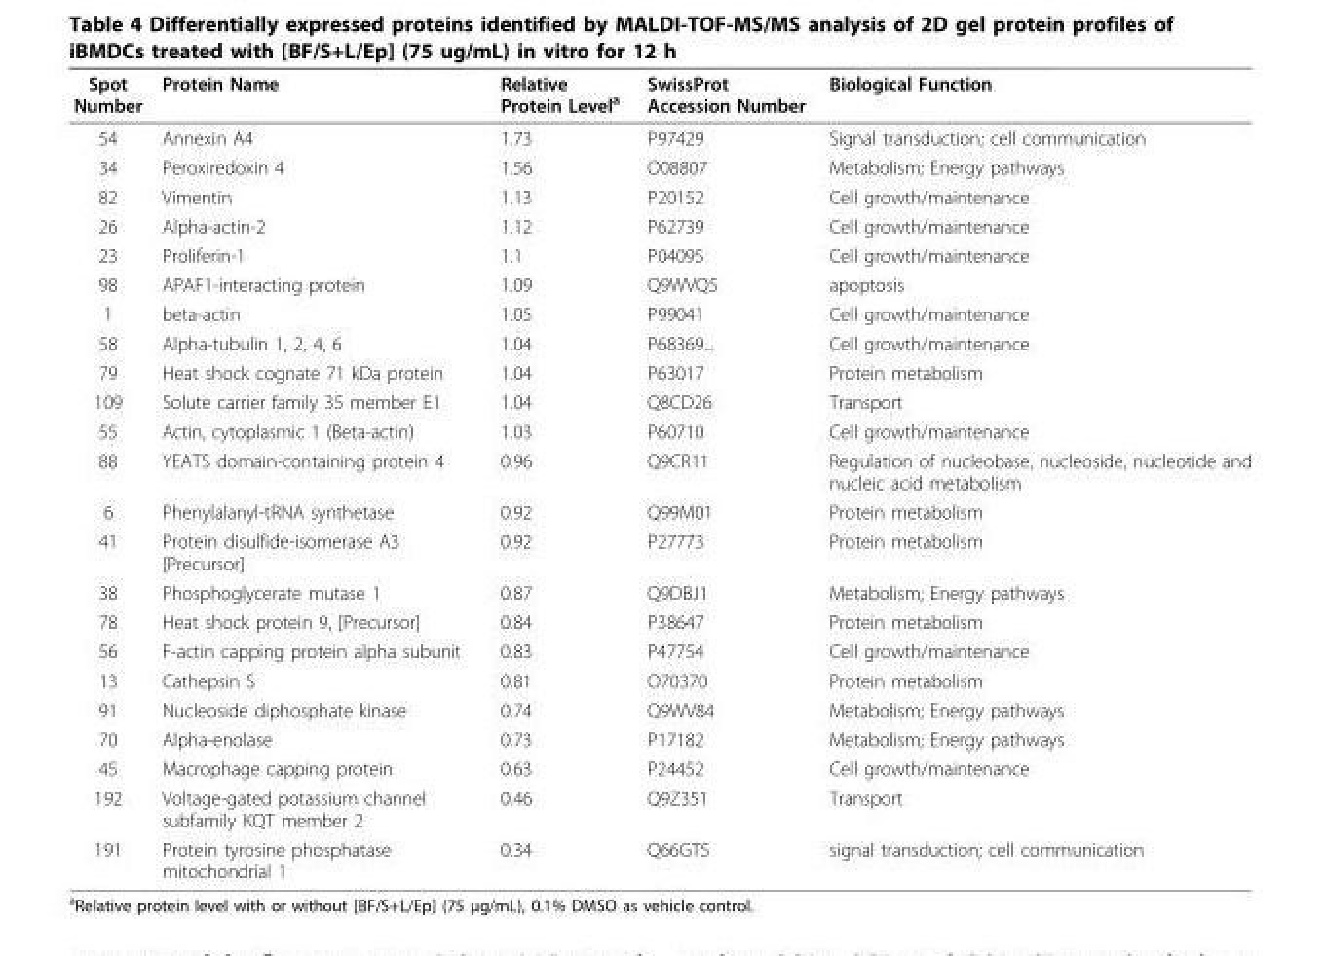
<table><thead><tr><td>Spot Number</td><td>Protein Name</td><td>Relative Protein Level<sup>a</sup></td><td>SwissProt Accession Number</td><td>Biological Function</td></tr></thead><tbody><tr><td>54</td><td>Annexin A4</td><td>1.73</td><td>P97429</td><td>Signal transduction; cell communication</td></tr><tr><td>34</td><td>Peroxiredoxin 4</td><td>1.56</td><td>O08807</td><td>Metabolism; Energy pathways</td></tr><tr><td>82</td><td>Vimentin</td><td>1.13</td><td>P20152</td><td>Cell growth/maintenance</td></tr><tr><td>26</td><td>Alpha-actin-2</td><td>1.12</td><td>P62739</td><td>Cell growth/maintenance</td></tr><tr><td>23</td><td>Proliferin-1</td><td>1.1</td><td>P04095</td><td>Cell growth/maintenance</td></tr><tr><td>98</td><td>APAF1-interacting protein</td><td>1.09</td><td>Q9WVQ5</td><td>apoptosis</td></tr><tr><td>1</td><td>beta-actin</td><td>1.05</td><td>P99041</td><td>Cell growth/maintenance</td></tr><tr><td>58</td><td>Alpha-tubulin 1, 2, 4, 6</td><td>1.04</td><td>P68369...</td><td>Cell growth/maintenance</td></tr><tr><td>79</td><td>Heat shock cognate 71 kDa protein</td><td>1.04</td><td>P63017</td><td>Protein metabolism</td></tr><tr><td>109</td><td>Solute carrier family 35 member E1</td><td>1.04</td><td>Q8CD26</td><td>Transport</td></tr><tr><td>55</td><td>Actin, cytoplasmic 1 (Beta-actin)</td><td>1.03</td><td>P60710</td><td>Cell growth/maintenance</td></tr><tr><td>88</td><td>YEATS domain-containing protein 4</td><td>0.96</td><td>Q9CR11</td><td>Regulation of nucleobase, nucleoside, nucleotide and nucleic acid metabolism</td></tr><tr><td>6</td><td>Phenylalanyl-tRNA synthetase</td><td>0.92</td><td>Q99M01</td><td>Protein metabolism</td></tr><tr><td>41</td><td>Protein disulfide-isomerase A3 [Precursor]</td><td>0.92</td><td>P27773</td><td>Protein metabolism</td></tr><tr><td>38</td><td>Phosphoglycerate mutase 1</td><td>0.87</td><td>Q9DBJ1</td><td>Metabolism; Energy pathways</td></tr><tr><td>78</td><td>Heat shock protein 9, [Precursor]</td><td>0.84</td><td>P38647</td><td>Protein metabolism</td></tr><tr><td>56</td><td>F-actin capping protein alpha subunit</td><td>0.83</td><td>P47754</td><td>Cell growth/maintenance</td></tr><tr><td>13</td><td>Cathepsin S</td><td>0.81</td><td>O70370</td><td>Protein metabolism</td></tr><tr><td>91</td><td>Nucleoside diphosphate kinase</td><td>0.74</td><td>Q9WV84</td><td>Metabolism; Energy pathways</td></tr><tr><td>70</td><td>Alpha-enolase</td><td>0.73</td><td>P17182</td><td>Metabolism; Energy pathways</td></tr><tr><td>45</td><td>Macrophage capping protein</td><td>0.63</td><td>P24452</td><td>Cell growth/maintenance</td></tr><tr><td>192</td><td>Voltage-gated potassium channel subfamily KQT member 2</td><td>0.46</td><td>Q9Z351</td><td>Transport</td></tr><tr><td>191</td><td>Protein tyrosine phosphatase mitochondrial 1</td><td>0.34</td><td>Q66GT5</td><td>signal transduction; cell communication</td></tr></tbody></table>